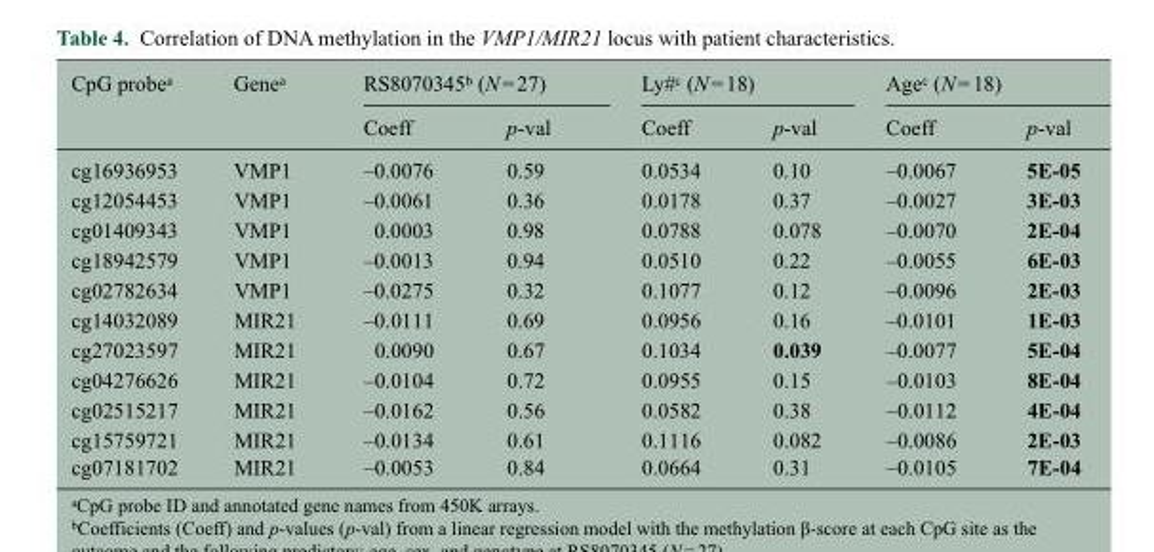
<table><thead><tr><td rowspan="2">CpG probe<sup>a</sup></td><td rowspan="2">Gene<sup>a</sup></td><td colspan="2">RS8070345<sup>b</sup> (N = 27)</td><td colspan="2">Ly#<sup>c</sup> (N = 18)</td><td colspan="2">Age<sup>c</sup> (N = 18)</td></tr><tr><td>Coeff</td><td>p-val</td><td>Coeff</td><td>p-val</td><td>Coeff</td><td>p-val</td></tr></thead><tbody><tr><td>cg16936953</td><td>VMP1</td><td>–0.0076</td><td>0.59</td><td>0.0534</td><td>0.10</td><td>–0.0067</td><td>5E-05</td></tr><tr><td>cg12054453</td><td>VMP1</td><td>–0.0061</td><td>0.36</td><td>0.0178</td><td>0.37</td><td>–0.0027</td><td>3E-03</td></tr><tr><td>cg01409343</td><td>VMP1</td><td>0.0003</td><td>0.98</td><td>0.0788</td><td>0.078</td><td>–0.0070</td><td>2E-04</td></tr><tr><td>cg18942579</td><td>VMP1</td><td>–0.0013</td><td>0.94</td><td>0.0510</td><td>0.22</td><td>–0.0055</td><td>6E-03</td></tr><tr><td>cg02782634</td><td>VMP1</td><td>–0.0275</td><td>0.32</td><td>0.1077</td><td>0.12</td><td>–0.0096</td><td>2E-03</td></tr><tr><td>cg14032089</td><td>MIR21</td><td>–0.0111</td><td>0.69</td><td>0.0956</td><td>0.16</td><td>–0.0101</td><td>1E-03</td></tr><tr><td>cg27023597</td><td>MIR21</td><td>0.0090</td><td>0.67</td><td>0.1034</td><td>0.039</td><td>–0.0077</td><td>5E-04</td></tr><tr><td>cg04276626</td><td>MIR21</td><td>–0.0104</td><td>0.72</td><td>0.0955</td><td>0.15</td><td>–0.0103</td><td>8E-04</td></tr><tr><td>cg02515217</td><td>MIR21</td><td>–0.0162</td><td>0.56</td><td>0.0582</td><td>0.38</td><td>–0.0112</td><td>4E-04</td></tr><tr><td>cg15759721</td><td>MIR21</td><td>–0.0134</td><td>0.61</td><td>0.1116</td><td>0.082</td><td>–0.0086</td><td>2E-03</td></tr><tr><td>cg07181702</td><td>MIR21</td><td>–0.0053</td><td>0.84</td><td>0.0664</td><td>0.31</td><td>–0.0105</td><td>7E-04</td></tr></tbody></table>